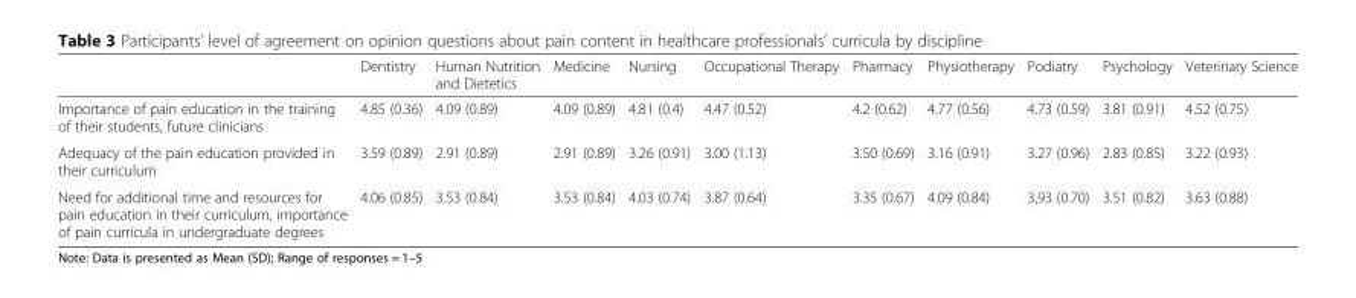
<table><thead><tr><td></td><td>Dentistry</td><td>Human Nutrition and Dietetics</td><td>Medicine</td><td>Nursing</td><td>Occupational Therapy</td><td>Pharmacy</td><td>Physiotherapy</td><td>Podiatry</td><td>Psychology</td><td>Veterinary Science</td></tr></thead><tbody><tr><td>Importance of pain education in the training of their students, future clinicians</td><td>4.85 (0.36)</td><td>4.09 (0.89)</td><td>4.09 (0.89)</td><td>4.81 (0.4)</td><td>4.47 (0.52)</td><td>4.2 (0.62)</td><td>4.77 (0.56)</td><td>4.73 (0.59)</td><td>3.81 (0.91)</td><td>4.52 (0.75)</td></tr><tr><td>Adequacy of the pain education provided in their curriculum</td><td>3.59 (0.89)</td><td>2.91 (0.89)</td><td>2.91 (0.89)</td><td>3.26 (0.91)</td><td>3.00 (1.13)</td><td>3.50 (0.69)</td><td>3.16 (0.91)</td><td>3.27 (0.96)</td><td>2.83 (0.85)</td><td>3.22 (0.93)</td></tr><tr><td>Need for additional time and resources for pain education in their curriculum, importance of pain curricula in undergraduate degrees</td><td>4.06 (0.85)</td><td>3.53 (0.84)</td><td>3.53 (0.84)</td><td>4.03 (0.74)</td><td>3.87 (0.64)</td><td>3.35 (0.67)</td><td>4.09 (0.84)</td><td>3,93 (0.70)</td><td>3.51 (0.82)</td><td>3.63 (0.88)</td></tr></tbody></table>